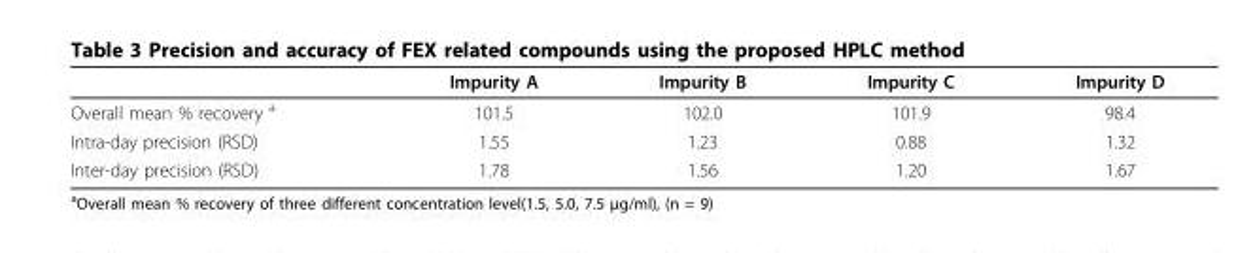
<table><thead><tr><td></td><td>Impurity A</td><td>Impurity B</td><td>Impurity C</td><td>Impurity D</td></tr></thead><tbody><tr><td>Overall mean % recovery <sup>a</sup></td><td>101.5</td><td>102.0</td><td>101.9</td><td>98.4</td></tr><tr><td>Intra-day precision (RSD)</td><td>1.55</td><td>1.23</td><td>0.88</td><td>1.32</td></tr><tr><td>Inter-day precision (RSD)</td><td>1.78</td><td>1.56</td><td>1.20</td><td>1.67</td></tr></tbody></table>